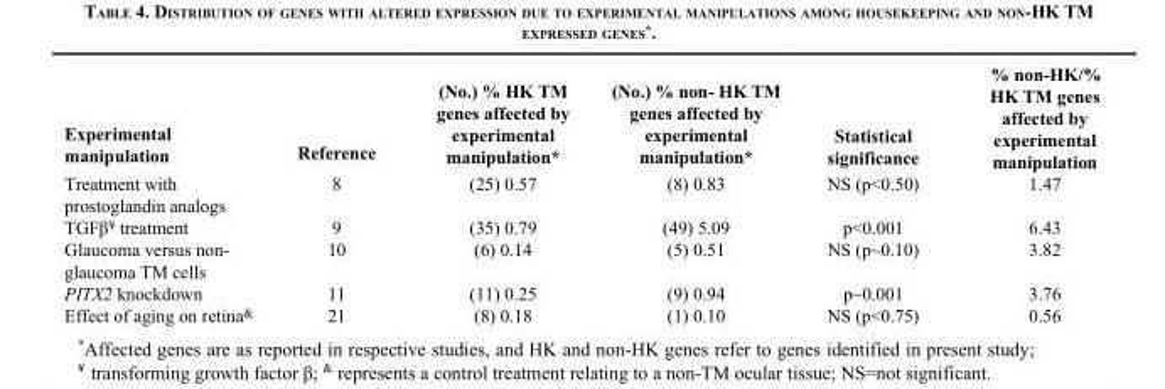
<table><thead><tr><td>Experimental manipulation</td><td>Reference</td><td>(No.) % HK TM genes affected by experimental manipulation*</td><td>(No.) % non- HK TM genes affected by experimental manipulation*</td><td>Statistical significance</td><td>% non-HK/% HK TM genes affected by experimental manipulation</td></tr></thead><tbody><tr><td>Treatment with prostoglandin analogs</td><td>8</td><td>(25) 0.57</td><td>(8) 0.83</td><td>NS (p&lt;0.50)</td><td>1.47</td></tr><tr><td>TGFβ<sup>¥</sup> treatment</td><td>9</td><td>(35) 0.79</td><td>(49) 5.09</td><td>p&lt;0.001</td><td>6.43</td></tr><tr><td>Glaucoma versus non- glaucoma TM cells</td><td>10</td><td>(6) 0.14</td><td>(5) 0.51</td><td>NS (p~0.10)</td><td>3.82</td></tr><tr><td>PITX2 knockdown</td><td>11</td><td>(11) 0.25</td><td>(9) 0.94</td><td>p~0.001</td><td>3.76</td></tr><tr><td>Effect of aging on retina<sup>&amp;</sup></td><td>21</td><td>(8) 0.18</td><td>(1) 0.10</td><td>NS (p&lt;0.75)</td><td>0.56</td></tr></tbody></table>